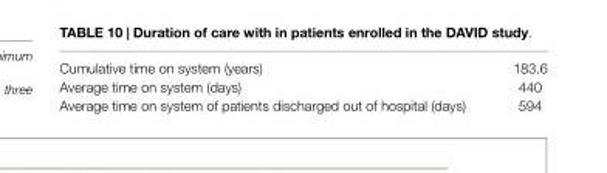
<table><tbody><tr><td>Cumulative time on system (years)</td><td>183.6</td></tr><tr><td>Average time on system (days)</td><td>440</td></tr><tr><td>Average time on system of patients discharged out of hospital (days)</td><td>594</td></tr></tbody></table>